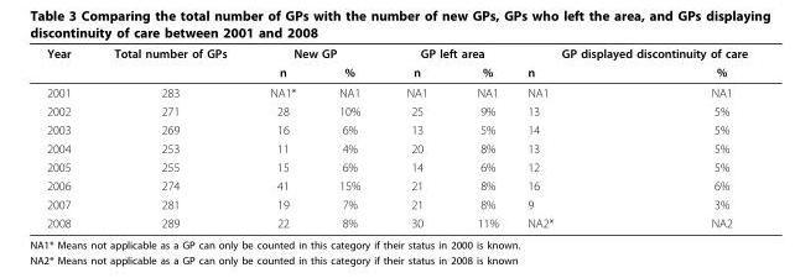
<table><thead><tr><td rowspan="2">Year</td><td rowspan="2">Total number of GPs</td><td colspan="2">New GP</td><td colspan="2">GP left area</td><td colspan="2">GP displayed discontinuity of care</td></tr><tr><td>n</td><td>%</td><td>n</td><td>%</td><td>n</td><td>%</td></tr></thead><tbody><tr><td>2001</td><td>283</td><td>NA1*</td><td>NA1</td><td>NA1</td><td>NA1</td><td>NA1</td><td>NA1</td></tr><tr><td>2002</td><td>271</td><td>28</td><td>10%</td><td>25</td><td>9%</td><td>13</td><td>5%</td></tr><tr><td>2003</td><td>269</td><td>16</td><td>6%</td><td>13</td><td>5%</td><td>14</td><td>5%</td></tr><tr><td>2004</td><td>253</td><td>11</td><td>4%</td><td>20</td><td>8%</td><td>13</td><td>5%</td></tr><tr><td>2005</td><td>255</td><td>15</td><td>6%</td><td>14</td><td>6%</td><td>12</td><td>5%</td></tr><tr><td>2006</td><td>274</td><td>41</td><td>15%</td><td>21</td><td>8%</td><td>16</td><td>6%</td></tr><tr><td>2007</td><td>281</td><td>19</td><td>7%</td><td>21</td><td>8%</td><td>9</td><td>3%</td></tr><tr><td>2008</td><td>289</td><td>22</td><td>8%</td><td>30</td><td>11%</td><td>NA2*</td><td>NA2</td></tr></tbody></table>